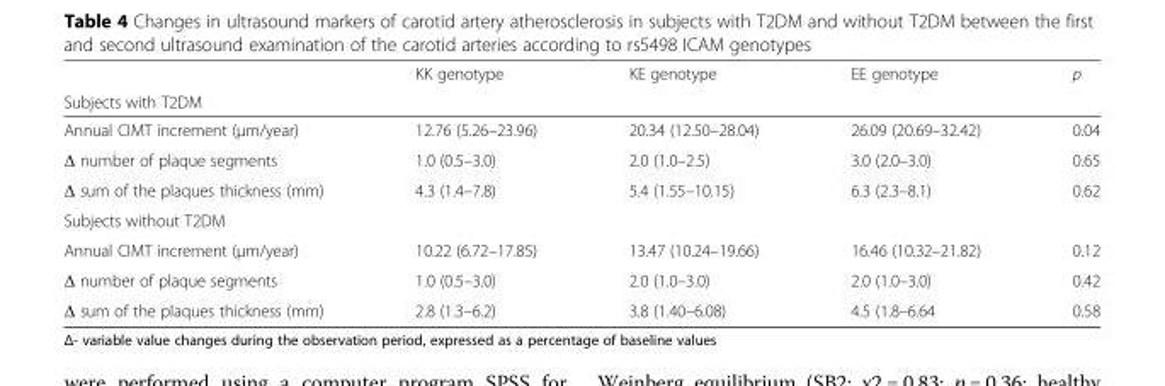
<table><thead><tr><td></td><td>KK genotype</td><td>KE genotype</td><td>EE genotype</td><td>p</td></tr><tr><td colspan="5">Subjects with T2DM</td></tr></thead><tbody><tr><td>Annual CIMT increment (μm/year)</td><td>12.76 (5.26–23.96)</td><td>20.34 (12.50–28.04)</td><td>26.09 (20.69–32.42)</td><td>0.04</td></tr><tr><td>Δ number of plaque segments</td><td>1.0 (0.5–3.0)</td><td>2.0 (1.0–2.5)</td><td>3.0 (2.0–3.0)</td><td>0.65</td></tr><tr><td>Δ sum of the plaques thickness (mm)</td><td>4.3 (1.4–7.8)</td><td>5.4 (1.55–10.15)</td><td>6.3 (2.3–8.1)</td><td>0.62</td></tr><tr><td colspan="5">Subjects without T2DM</td></tr><tr><td>Annual CIMT increment (μm/year)</td><td>10.22 (6.72–17.85)</td><td>13.47 (10.24–19.66)</td><td>16.46 (10.32–21.82)</td><td>0.12</td></tr><tr><td>Δ number of plaque segments</td><td>1.0 (0.5–3.0)</td><td>2.0 (1.0–3.0)</td><td>2.0 (1.0–3.0)</td><td>0.42</td></tr><tr><td>Δ sum of the plaques thickness (mm)</td><td>2.8 (1.3–6.2)</td><td>3.8 (1.40–6.08)</td><td>4.5 (1.8–6.64</td><td>0.58</td></tr></tbody></table>